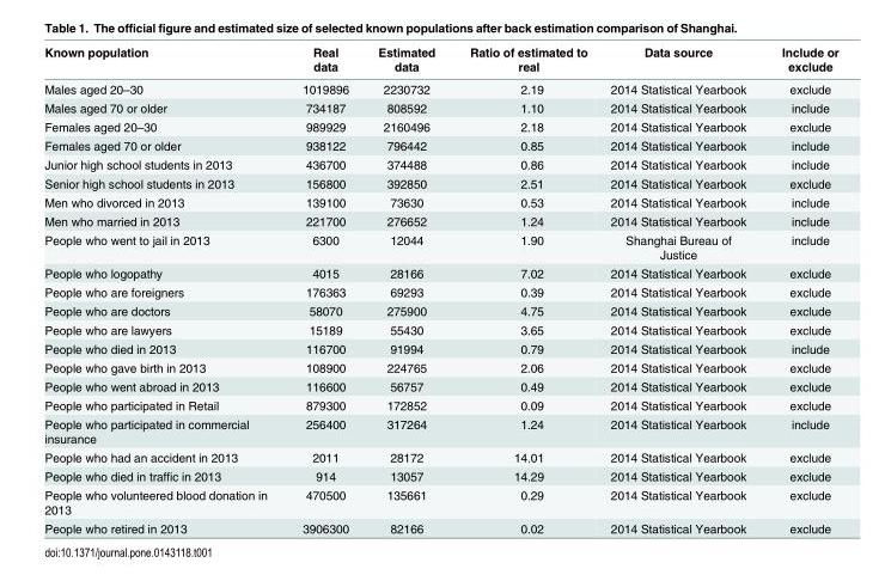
<table><thead><tr><td>Known population</td><td>Real data</td><td>Estimated data</td><td>Ratio of estimated to real</td><td>Data source</td><td>Include or exclude</td></tr></thead><tbody><tr><td>Males aged 20–30</td><td>1019896</td><td>2230732</td><td>2.19</td><td>2014 Statistical Yearbook</td><td>exclude</td></tr><tr><td>Males aged 70 or older</td><td>734187</td><td>808592</td><td>1.10</td><td>2014 Statistical Yearbook</td><td>include</td></tr><tr><td>Females aged 20–30</td><td>989929</td><td>2160496</td><td>2.18</td><td>2014 Statistical Yearbook</td><td>exclude</td></tr><tr><td>Females aged 70 or older</td><td>938122</td><td>796442</td><td>0.85</td><td>2014 Statistical Yearbook</td><td>include</td></tr><tr><td>Junior high school students in 2013</td><td>436700</td><td>374488</td><td>0.86</td><td>2014 Statistical Yearbook</td><td>include</td></tr><tr><td>Senior high school students in 2013</td><td>156800</td><td>392850</td><td>2.51</td><td>2014 Statistical Yearbook</td><td>exclude</td></tr><tr><td>Men who divorced in 2013</td><td>139100</td><td>73630</td><td>0.53</td><td>2014 Statistical Yearbook</td><td>include</td></tr><tr><td>Men who married in 2013</td><td>221700</td><td>276652</td><td>1.24</td><td>2014 Statistical Yearbook</td><td>include</td></tr><tr><td>People who went to jail in 2013</td><td>6300</td><td>12044</td><td>1.90</td><td>Shanghai Bureau of Justice</td><td>include</td></tr><tr><td>People who logopathy</td><td>4015</td><td>28166</td><td>7.02</td><td>2014 Statistical Yearbook</td><td>exclude</td></tr><tr><td>People who are foreigners</td><td>176363</td><td>69293</td><td>0.39</td><td>2014 Statistical Yearbook</td><td>exclude</td></tr><tr><td>People who are doctors</td><td>58070</td><td>275900</td><td>4.75</td><td>2014 Statistical Yearbook</td><td>exclude</td></tr><tr><td>People who are lawyers</td><td>15189</td><td>55430</td><td>3.65</td><td>2014 Statistical Yearbook</td><td>exclude</td></tr><tr><td>People who died in 2013</td><td>116700</td><td>91994</td><td>0.79</td><td>2014 Statistical Yearbook</td><td>include</td></tr><tr><td>People who gave birth in 2013</td><td>108900</td><td>224765</td><td>2.06</td><td>2014 Statistical Yearbook</td><td>exclude</td></tr><tr><td>People who went abroad in 2013</td><td>116600</td><td>56757</td><td>0.49</td><td>2014 Statistical Yearbook</td><td>exclude</td></tr><tr><td>People who participated in Retail</td><td>879300</td><td>172852</td><td>0.09</td><td>2014 Statistical Yearbook</td><td>exclude</td></tr><tr><td>People who participated in commercial insurance</td><td>256400</td><td>317264</td><td>1.24</td><td>2014 Statistical Yearbook</td><td>include</td></tr><tr><td>People who had an accident in 2013</td><td>2011</td><td>28172</td><td>14.01</td><td>2014 Statistical Yearbook</td><td>exclude</td></tr><tr><td>People who died in traffic in 2013</td><td>914</td><td>13057</td><td>14.29</td><td>2014 Statistical Yearbook</td><td>exclude</td></tr><tr><td>People who volunteered blood donation in 2013</td><td>470500</td><td>135661</td><td>0.29</td><td>2014 Statistical Yearbook</td><td>exclude</td></tr><tr><td>People who retired in 2013</td><td>3906300</td><td>82166</td><td>0.02</td><td>2014 Statistical Yearbook</td><td>exclude</td></tr></tbody></table>